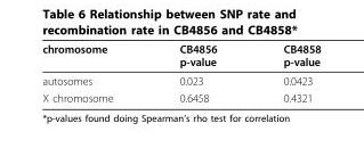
<table><thead><tr><td>chromosome</td><td>CB4856 p-value</td><td>CB4858 p-value</td></tr></thead><tbody><tr><td>autosomes</td><td>0.023</td><td>0.0423</td></tr><tr><td>X chromosome</td><td>0.6458</td><td>0.4321</td></tr></tbody></table>